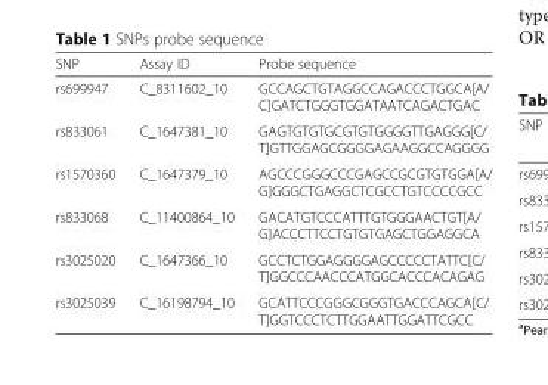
<table><thead><tr><td>SNP</td><td>Assay ID</td><td>Probe sequence</td></tr></thead><tbody><tr><td>rs699947</td><td>C_8311602_10</td><td>GCCAGCTGTAGGCCAGACCCTGGCA[A/ C]GATCTGGGTGGATAATCAGACTGAC</td></tr><tr><td>rs833061</td><td>C_1647381_10</td><td>GAGTGTGTGCGTGTGGGGTTGAGGG[C/ T]GTTGGAGCGGGGAGAAGGCCAGGGG</td></tr><tr><td>rs1570360</td><td>C_1647379_10</td><td>AGCCCGGGCCCGAGCCGCGTGTGGA[A/ G]GGGCTGAGGCTCGCCTGTCCCCGCC</td></tr><tr><td>rs833068</td><td>C_11400864_10</td><td>GACATGTCCCATTTGTGGGAACTGT[A/ G]ACCCTTCCTGTGTGAGCTGGAGGCA</td></tr><tr><td>rs3025020</td><td>C_1647366_10</td><td>GCCTCTGGAGGGGAGCCCCCTATTC[C/ T]GGCCCAACCCATGGCACCCACAGAG</td></tr><tr><td>rs3025039</td><td>C_16198794_10</td><td>GCATTCCCGGGCGGGTGACCCAGCA[C/ T]GGTCCCTCTTGGAATTGGATTCGCC</td></tr></tbody></table>